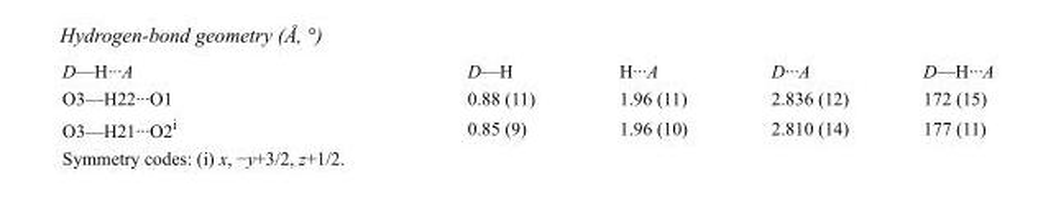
<table><tbody><tr><td>D—H···A</td><td>D—H</td><td>H···A</td><td>D···A</td><td>D—H···A</td></tr><tr><td>O3—H22···O1</td><td>0.88 (11)</td><td>1.96 (11)</td><td>2.836 (12)</td><td>172 (15)</td></tr><tr><td>O3—H21···O2<sup>i</sup></td><td>0.85 (9)</td><td>1.96 (10)</td><td>2.810 (14)</td><td>177 (11)</td></tr></tbody></table>